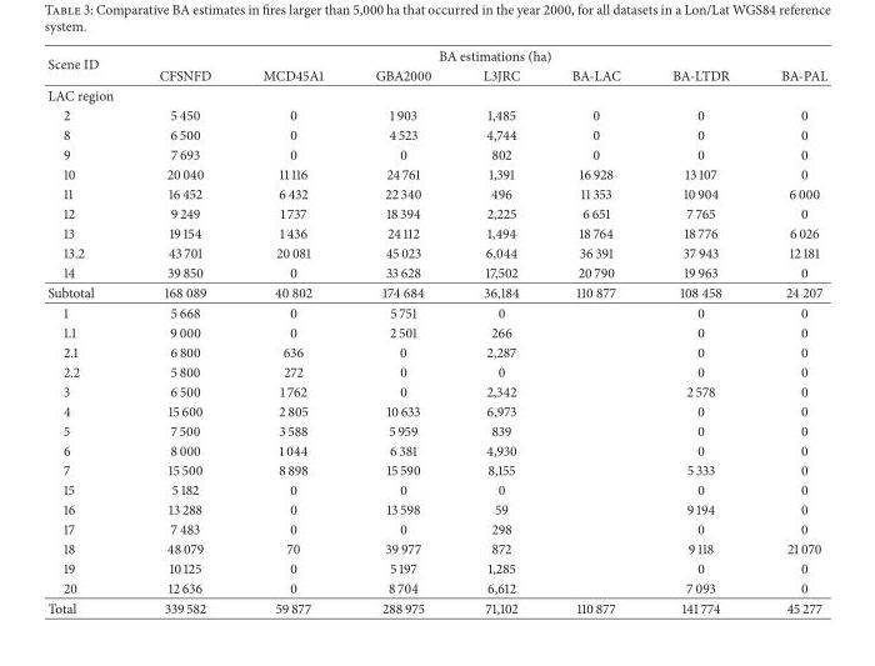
<table><thead><tr><td rowspan="2">Scene ID</td><td colspan="7">BA estimations (ha)</td></tr><tr><td>CFSNFD</td><td>MCD45A1</td><td>GBA2000</td><td>L3JRC</td><td>BA-LAC</td><td>BA-LTDR</td><td>BA-PAL</td></tr></thead><tbody><tr><td colspan="8">LAC region</td></tr><tr><td>2</td><td>5 450</td><td>0</td><td>1 903</td><td>1,485</td><td>0</td><td>0</td><td>0</td></tr><tr><td>8</td><td>6 500</td><td>0</td><td>4 523</td><td>4,744</td><td>0</td><td>0</td><td>0</td></tr><tr><td>9</td><td>7 693</td><td>0</td><td>0</td><td>802</td><td>0</td><td>0</td><td>0</td></tr><tr><td>10</td><td>20 040</td><td>11 116</td><td>24 761</td><td>1,391</td><td>16 928</td><td>13 107</td><td>0</td></tr><tr><td>11</td><td>16 452</td><td>6 432</td><td>22 340</td><td>496</td><td>11 353</td><td>10 904</td><td>6 000</td></tr><tr><td>12</td><td>9 249</td><td>1 737</td><td>18 394</td><td>2,225</td><td>6 651</td><td>7 765</td><td>0</td></tr><tr><td>13</td><td>19 154</td><td>1 436</td><td>24 112</td><td>1,494</td><td>18 764</td><td>18 776</td><td>6 026</td></tr><tr><td>13.2</td><td>43 701</td><td>20 081</td><td>45 023</td><td>6,044</td><td>36 391</td><td>37 943</td><td>12 181</td></tr><tr><td>14</td><td>39 850</td><td>0</td><td>33 628</td><td>17,502</td><td>20 790</td><td>19 963</td><td>0</td></tr><tr><td>Subtotal</td><td>168 089</td><td>40 802</td><td>174 684</td><td>36,184</td><td>110 877</td><td>108 458</td><td>24 207</td></tr><tr><td>1</td><td>5 668</td><td>0</td><td>5 751</td><td>0</td><td></td><td>0</td><td>0</td></tr><tr><td>1.1</td><td>9 000</td><td>0</td><td>2 501</td><td>266</td><td></td><td>0</td><td>0</td></tr><tr><td>2.1</td><td>6 800</td><td>636</td><td>0</td><td>2,287</td><td></td><td>0</td><td>0</td></tr><tr><td>2.2</td><td>5 800</td><td>272</td><td>0</td><td>0</td><td></td><td>0</td><td>0</td></tr><tr><td>3</td><td>6 500</td><td>1 762</td><td>0</td><td>2,342</td><td></td><td>2 578</td><td>0</td></tr><tr><td>4</td><td>15 600</td><td>2 805</td><td>10 633</td><td>6,973</td><td></td><td>0</td><td>0</td></tr><tr><td>5</td><td>7 500</td><td>3 588</td><td>5 959</td><td>839</td><td></td><td>0</td><td>0</td></tr><tr><td>6</td><td>8 000</td><td>1 044</td><td>6 381</td><td>4,930</td><td></td><td>0</td><td>0</td></tr><tr><td>7</td><td>15 500</td><td>8 898</td><td>15 590</td><td>8,155</td><td></td><td>5 333</td><td>0</td></tr><tr><td>15</td><td>5 182</td><td>0</td><td>0</td><td>0</td><td></td><td>0</td><td>0</td></tr><tr><td>16</td><td>13 288</td><td>0</td><td>13 598</td><td>59</td><td></td><td>9 194</td><td>0</td></tr><tr><td>17</td><td>7 483</td><td>0</td><td>0</td><td>298</td><td></td><td>0</td><td>0</td></tr><tr><td>18</td><td>48 079</td><td>70</td><td>39 977</td><td>872</td><td></td><td>9 118</td><td>21 070</td></tr><tr><td>19</td><td>10 125</td><td>0</td><td>5 197</td><td>1,285</td><td></td><td>0</td><td>0</td></tr><tr><td>20</td><td>12 636</td><td>0</td><td>8 704</td><td>6,612</td><td></td><td>7 093</td><td>0</td></tr><tr><td>Total</td><td>339 582</td><td>59 877</td><td>288 975</td><td>71,102</td><td>110 877</td><td>141 774</td><td>45 277</td></tr></tbody></table>